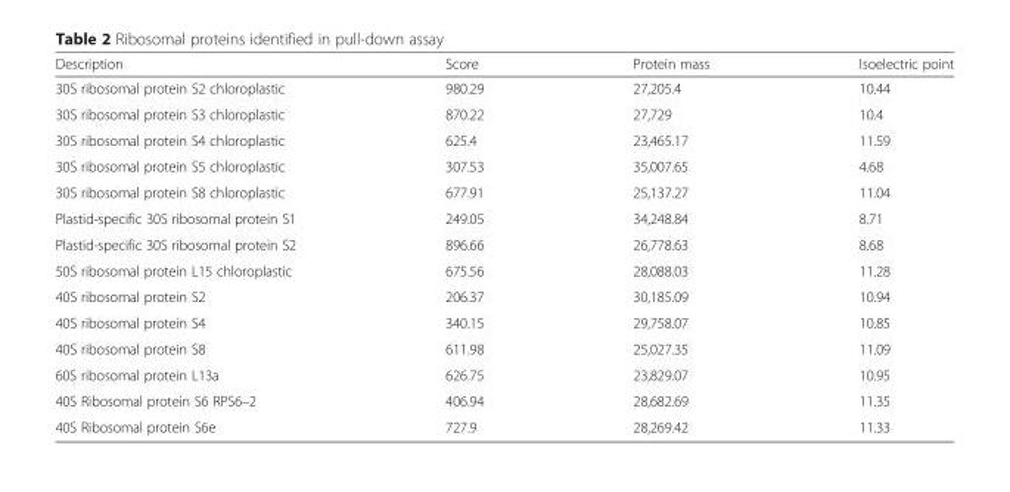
<table><thead><tr><td>Description</td><td>Score</td><td>Protein mass</td><td>Isoelectric point</td></tr></thead><tbody><tr><td>30S ribosomal protein S2 chloroplastic</td><td>980.29</td><td>27,205.4</td><td>10.44</td></tr><tr><td>30S ribosomal protein S3 chloroplastic</td><td>870.22</td><td>27,729</td><td>10.4</td></tr><tr><td>30S ribosomal protein S4 chloroplastic</td><td>625.4</td><td>23,465.17</td><td>11.59</td></tr><tr><td>30S ribosomal protein S5 chloroplastic</td><td>307.53</td><td>35,007.65</td><td>4.68</td></tr><tr><td>30S ribosomal protein S8 chloroplastic</td><td>677.91</td><td>25,137.27</td><td>11.04</td></tr><tr><td>Plastid-specific 30S ribosomal protein S1</td><td>249.05</td><td>34,248.84</td><td>8.71</td></tr><tr><td>Plastid-specific 30S ribosomal protein S2</td><td>896.66</td><td>26,778.63</td><td>8.68</td></tr><tr><td>50S ribosomal protein L15 chloroplastic</td><td>675.56</td><td>28,088.03</td><td>11.28</td></tr><tr><td>40S ribosomal protein S2</td><td>206.37</td><td>30,185.09</td><td>10.94</td></tr><tr><td>40S ribosomal protein S4</td><td>340.15</td><td>29,758.07</td><td>10.85</td></tr><tr><td>40S ribosomal protein S8</td><td>611.98</td><td>25,027.35</td><td>11.09</td></tr><tr><td>60S ribosomal protein L13a</td><td>626.75</td><td>23,829.07</td><td>10.95</td></tr><tr><td>40S Ribosomal protein S6 RPS6–2</td><td>406.94</td><td>28,682.69</td><td>11.35</td></tr><tr><td>40S Ribosomal protein S6e</td><td>727.9</td><td>28,269.42</td><td>11.33</td></tr></tbody></table>